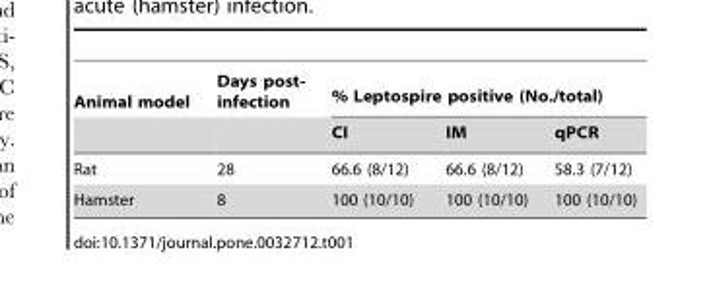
<table><thead><tr><td rowspan="2">Animal model</td><td rowspan="2">Days post- infection</td><td colspan="3">% Leptospire positive (No./total)</td></tr><tr><td>CI</td><td>IM</td><td>qPCR</td></tr></thead><tbody><tr><td>Rat</td><td>28</td><td>66.6 (8/12)</td><td>66.6 (8/12)</td><td>58.3 (7/12)</td></tr><tr><td>Hamster</td><td>8</td><td>100 (10/10)</td><td>100 (10/10)</td><td>100 (10/10)</td></tr></tbody></table>